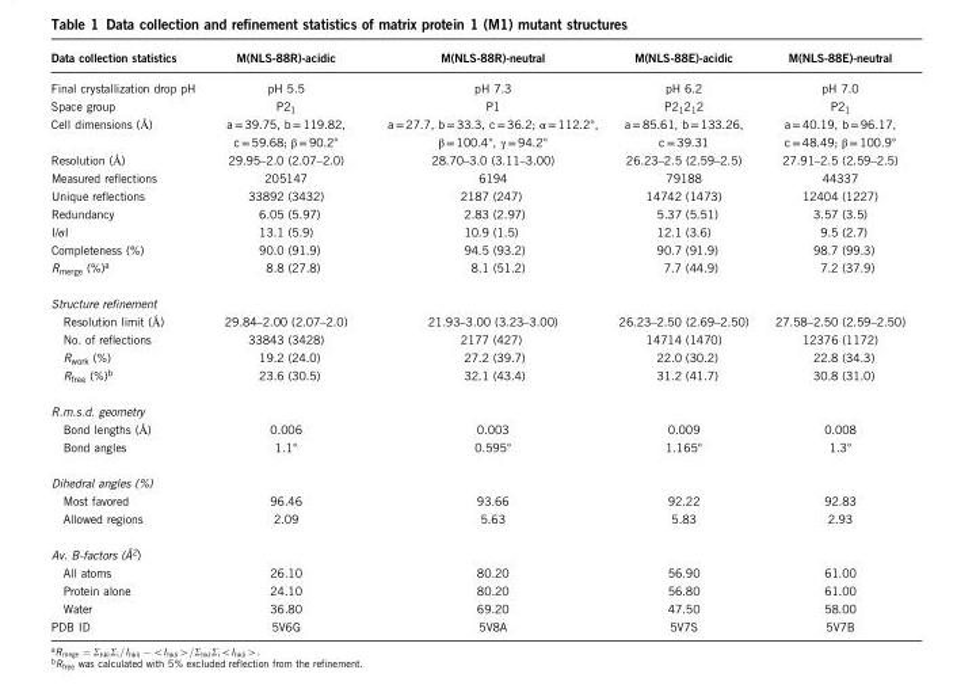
<table><thead><tr><td>Data collection statistics</td><td>M(NLS-88R)-acidic</td><td>M(NLS-88R)-neutral</td><td>M(NLS-88E)-acidic</td><td>M(NLS-88E)-neutral</td></tr></thead><tbody><tr><td>Final crystallization drop pH</td><td>pH 5.5</td><td>pH 7.3</td><td>pH 6.2</td><td>pH 7.0</td></tr><tr><td>Space group</td><td>P2<sub>1</sub></td><td>P1</td><td>P2<sub>1</sub>2<sub>1</sub>2</td><td>P2<sub>1</sub></td></tr><tr><td>Cell dimensions (Ǻ)</td><td>a = 39.75, b = 119.82, c = 59.68; β = 90.2°</td><td>a = 27.7, b = 33.3, c = 36.2; α = 112.2°, β = 100.4°, γ = 94.2°</td><td>a = 85.61, b = 133.26, c = 39.31</td><td>a = 40.19, b = 96.17, c = 48.49; β = 100.9°</td></tr><tr><td>Resolution (Ǻ)</td><td>29.95–2.0 (2.07–2.0)</td><td>28.70–3.0 (3.11–3.00)</td><td>26.23–2.5 (2.59–2.5)</td><td>27.91–2.5 (2.59–2.5)</td></tr><tr><td>Measured reflections</td><td>205147</td><td>6194</td><td>79188</td><td>44337</td></tr><tr><td>Unique reflections</td><td>33892 (3432)</td><td>2187 (247)</td><td>14742 (1473)</td><td>12404 (1227)</td></tr><tr><td>Redundancy</td><td>6.05 (5.97)</td><td>2.83 (2.97)</td><td>5.37 (5.51)</td><td>3.57 (3.5)</td></tr><tr><td>I/σI</td><td>13.1 (5.9)</td><td>10.9 (1.5)</td><td>12.1 (3.6)</td><td>9.5 (2.7)</td></tr><tr><td>Completeness (%)</td><td>90.0 (91.9)</td><td>94.5 (93.2)</td><td>90.7 (91.9)</td><td>98.7 (99.3)</td></tr><tr><td>R<sub>merge</sub> (%)<sup>a</sup></td><td>8.8 (27.8)</td><td>8.1 (51.2)</td><td>7.7 (44.9)</td><td>7.2 (37.9)</td></tr><tr><td colspan="5">Structure refinement</td></tr><tr><td>Resolution limit (Ǻ)</td><td>29.84–2.00 (2.07–2.0)</td><td>21.93–3.00 (3.23–3.00)</td><td>26.23–2.50 (2.69–2.50)</td><td>27.58–2.50 (2.59–2.50)</td></tr><tr><td>No. of reflections</td><td>33843 (3428)</td><td>2177 (427)</td><td>14714 (1470)</td><td>12376 (1172)</td></tr><tr><td>R<sub>work</sub> (%)</td><td>19.2 (24.0)</td><td>27.2 (39.7)</td><td>22.0 (30.2)</td><td>22.8 (34.3)</td></tr><tr><td>R<sub>free</sub> (%)<sup>b</sup></td><td>23.6 (30.5)</td><td>32.1 (43.4)</td><td>31.2 (41.7)</td><td>30.8 (31.0)</td></tr><tr><td colspan="5">R.m.s.d. geometry</td></tr><tr><td>Bond lengths (Ǻ)</td><td>0.006</td><td>0.003</td><td>0.009</td><td>0.008</td></tr><tr><td>Bond angles</td><td>1.1°</td><td>0.595°</td><td>1.165°</td><td>1.3°</td></tr><tr><td colspan="5">Dihedral angles (%)</td></tr><tr><td>Most favored</td><td>96.46</td><td>93.66</td><td>92.22</td><td>92.83</td></tr><tr><td>Allowed regions</td><td>2.09</td><td>5.63</td><td>5.83</td><td>2.93</td></tr><tr><td colspan="5">Av. B-factors (Å<sup>2</sup>)</td></tr><tr><td>All atoms</td><td>26.10</td><td>80.20</td><td>56.90</td><td>61.00</td></tr><tr><td>Protein alone</td><td>24.10</td><td>80.20</td><td>56.80</td><td>61.00</td></tr><tr><td>Water</td><td>36.80</td><td>69.20</td><td>47.50</td><td>58.00</td></tr><tr><td>PDB ID</td><td>5V6G</td><td>5V8A</td><td>5V7S</td><td>5V7B</td></tr></tbody></table>